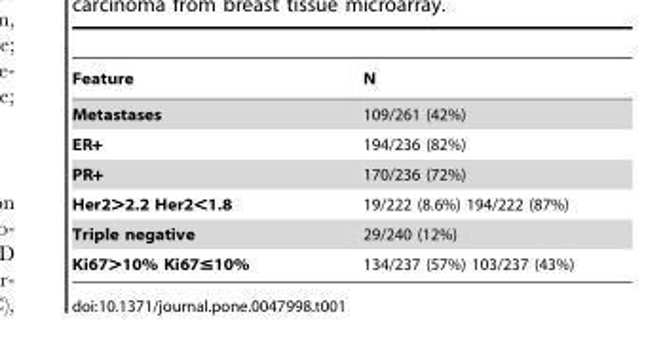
<table><thead><tr><td>Feature</td><td>N</td></tr></thead><tbody><tr><td>Metastases</td><td>109/261 (42%)</td></tr><tr><td>ER+</td><td>194/236 (82%)</td></tr><tr><td>PR+</td><td>170/236 (72%)</td></tr><tr><td>Her2&gt;2.2 Her2&lt;1.8</td><td>19/222 (8.6%) 194/222 (87%)</td></tr><tr><td>Triple negative</td><td>29/240 (12%)</td></tr><tr><td>Ki67&gt;10% Ki67≤10%</td><td>134/237 (57%) 103/237 (43%)</td></tr></tbody></table>